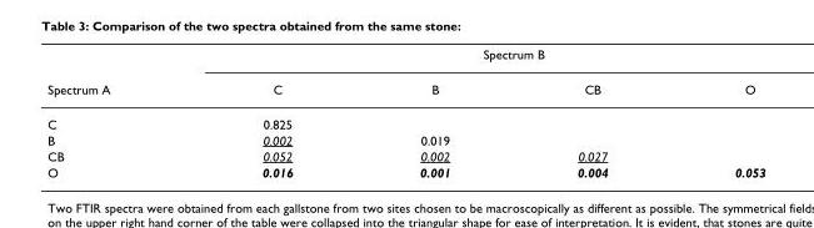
<table><thead><tr><td rowspan="2">Spectrum A</td><td colspan="4">Spectrum B</td></tr><tr><td>C</td><td>B</td><td>CB</td><td>O</td></tr></thead><tbody><tr><td>C</td><td>0.825</td><td></td><td></td><td></td></tr><tr><td>B</td><td>0.002</td><td>0.019</td><td></td><td></td></tr><tr><td>CB</td><td>0.052</td><td>0.002</td><td>0.027</td><td></td></tr><tr><td>O</td><td>0.016</td><td>0.001</td><td>0.004</td><td>0.053</td></tr></tbody></table>